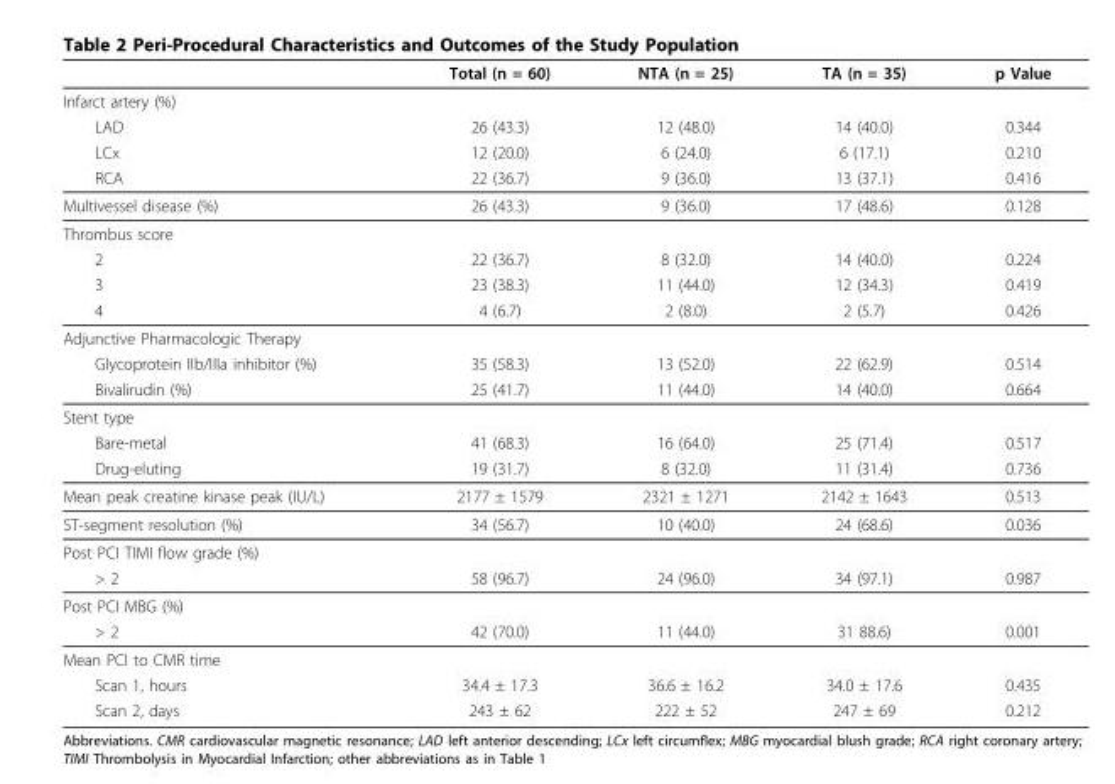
<table><thead><tr><td></td><td>Total (n = 60)</td><td>NTA (n = 25)</td><td>TA (n = 35)</td><td>p Value</td></tr></thead><tbody><tr><td colspan="5">Infarct artery (%)</td></tr><tr><td>LAD</td><td>26 (43.3)</td><td>12 (48.0)</td><td>14 (40.0)</td><td>0.344</td></tr><tr><td>LCx</td><td>12 (20.0)</td><td>6 (24.0)</td><td>6 (17.1)</td><td>0.210</td></tr><tr><td>RCA</td><td>22 (36.7)</td><td>9 (36.0)</td><td>13 (37.1)</td><td>0.416</td></tr><tr><td>Multivessel disease (%)</td><td>26 (43.3)</td><td>9 (36.0)</td><td>17 (48.6)</td><td>0.128</td></tr><tr><td colspan="5">Thrombus score</td></tr><tr><td>2</td><td>22 (36.7)</td><td>8 (32.0)</td><td>14 (40.0)</td><td>0.224</td></tr><tr><td>3</td><td>23 (38.3)</td><td>11 (44.0)</td><td>12 (34.3)</td><td>0.419</td></tr><tr><td>4</td><td>4 (6.7)</td><td>2 (8.0)</td><td>2 (5.7)</td><td>0.426</td></tr><tr><td colspan="5">Adjunctive Pharmacologic Therapy</td></tr><tr><td>Glycoprotein IIb/IIIa inhibitor (%)</td><td>35 (58.3)</td><td>13 (52.0)</td><td>22 (62.9)</td><td>0.514</td></tr><tr><td>Bivalirudin (%)</td><td>25 (41.7)</td><td>11 (44.0)</td><td>14 (40.0)</td><td>0.664</td></tr><tr><td colspan="5">Stent type</td></tr><tr><td>Bare-metal</td><td>41 (68.3)</td><td>16 (64.0)</td><td>25 (71.4)</td><td>0.517</td></tr><tr><td>Drug-eluting</td><td>19 (31.7)</td><td>8 (32.0)</td><td>11 (31.4)</td><td>0.736</td></tr><tr><td>Mean peak creatine kinase peak (IU/L)</td><td>2177 ± 1579</td><td>2321 ± 1271</td><td>2142 ± 1643</td><td>0.513</td></tr><tr><td>ST-segment resolution (%)</td><td>34 (56.7)</td><td>10 (40.0)</td><td>24 (68.6)</td><td>0.036</td></tr><tr><td colspan="5">Post PCI TIMI flow grade (%)</td></tr><tr><td>&gt; 2</td><td>58 (96.7)</td><td>24 (96.0)</td><td>34 (97.1)</td><td>0.987</td></tr><tr><td colspan="5">Post PCI MBG (%)</td></tr><tr><td>&gt; 2</td><td>42 (70.0)</td><td>11 (44.0)</td><td>31 88.6)</td><td>0.001</td></tr><tr><td colspan="5">Mean PCI to CMR time</td></tr><tr><td>Scan 1, hours</td><td>34.4 ± 17.3</td><td>36.6 ± 16.2</td><td>34.0 ± 17.6</td><td>0.435</td></tr><tr><td>Scan 2, days</td><td>243 ± 62</td><td>222 ± 52</td><td>247 ± 69</td><td>0.212</td></tr></tbody></table>